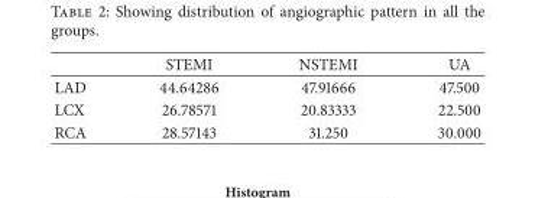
<table><thead><tr><td></td><td>STEMI</td><td>NSTEMI</td><td>UA</td></tr></thead><tbody><tr><td>LAD</td><td>44.64286</td><td>47.91666</td><td>47.500</td></tr><tr><td>LCX</td><td>26.78571</td><td>20.83333</td><td>22.500</td></tr><tr><td>RCA</td><td>28.57143</td><td>31.250</td><td>30.000</td></tr></tbody></table>